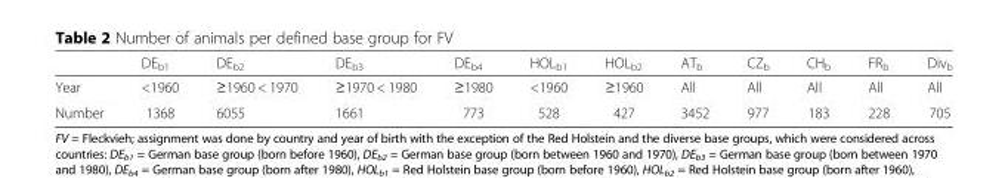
<table><thead><tr><td></td><td>DE<sub>b1</sub></td><td>DE<sub>b2</sub></td><td>DE<sub>b3</sub></td><td>DE<sub>b4</sub></td><td>HOL<sub>b1</sub></td><td>HOL<sub>b2</sub></td><td>AT<sub>b</sub></td><td>CZ<sub>b</sub></td><td>CH<sub>b</sub></td><td>FR<sub>b</sub></td><td>Div<sub>b</sub></td></tr></thead><tbody><tr><td>Year</td><td>&lt;1960</td><td>≥1960 &lt; 1970</td><td>≥1970 &lt; 1980</td><td>≥1980</td><td>&lt;1960</td><td>≥1960</td><td>All</td><td>All</td><td>All</td><td>All</td><td>All</td></tr><tr><td>Number</td><td>1368</td><td>6055</td><td>1661</td><td>773</td><td>528</td><td>427</td><td>3452</td><td>977</td><td>183</td><td>228</td><td>705</td></tr></tbody></table>